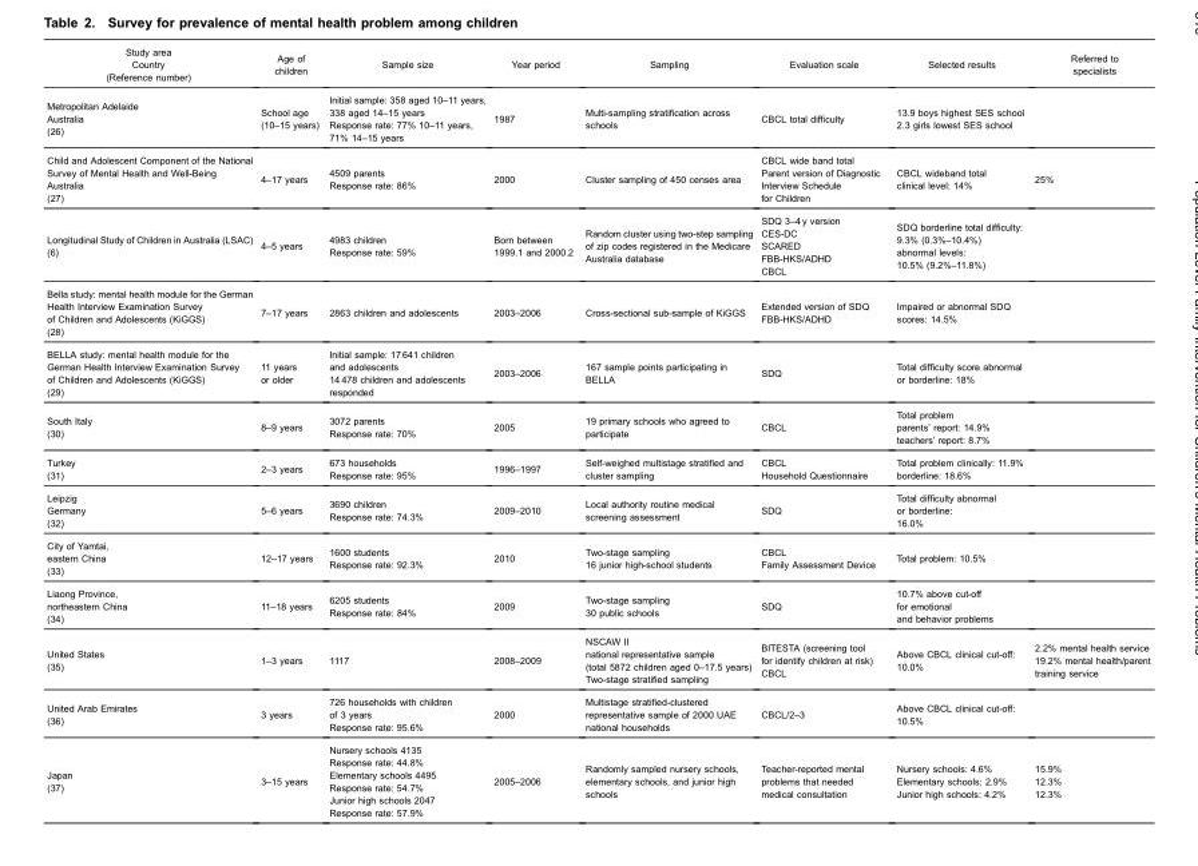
<table><thead><tr><td>Study area Country (Reference number)</td><td>Age of children</td><td>Sample size</td><td>Year period</td><td>Sampling</td><td>Evaluation scale</td><td>Selected results</td><td>Referred to specialists</td></tr></thead><tbody><tr><td>Metropolitan Adelaide Australia (26)</td><td>School age (10–15 years)</td><td>Initial sample: 358 aged 10–11 years, 338 aged 14–15 years Response rate: 77% 10–11 years, 71% 14–15 years</td><td>1987</td><td>Multi-sampling stratification across schools</td><td>CBCL total difficulty</td><td>13.9 boys highest SES school 2.3 girls lowest SES school</td><td></td></tr><tr><td>Child and Adolescent Component of the National Survey of Mental Health and Well-Being Australia (27)</td><td>4–17 years</td><td>4509 parents Response rate: 86%</td><td>2000</td><td>Cluster sampling of 450 censes area</td><td>CBCL wide band total Parent version of Diagnostic Interview Schedule for Children</td><td>CBCL wideband total clinical level: 14%</td><td>25%</td></tr><tr><td>Longitudinal Study of Children in Australia (LSAC) (6)</td><td>4–5 years</td><td>4983 children Response rate: 59%</td><td>Born between 1999.1 and 2000.2</td><td>Random cluster using two-step sampling of zip codes registered in the Medicare Australia database</td><td>SDQ 3–4 y version CES-DC SCARED FBB-HKS/ADHD CBCL</td><td>SDQ borderline total difficulty: 9.3% (0.3%–10.4%) abnormal levels: 10.5% (9.2%–11.8%)</td><td></td></tr><tr><td>Bella study: mental health module for the German Health Interview Examination Survey of Children and Adolescents (KiGGS) (28)</td><td>7–17 years</td><td>2863 children and adolescents</td><td>2003–2006</td><td>Cross-sectional sub-sample of KiGGS</td><td>Extended version of SDQ FBB-HKS/ADHD</td><td>Impaired or abnormal SDQ scores: 14.5%</td><td></td></tr><tr><td>BELLA study: mental health module for the German Health Interview Examination Survey of Children and Adolescents (KiGGS) (29)</td><td>11 years or older</td><td>Initial sample: 17 641 children and adolescents 14 478 children and adolescents responded</td><td>2003–2006</td><td>167 sample points participating in BELLA</td><td>SDQ</td><td>Total difficulty score abnormal or borderline: 18%</td><td></td></tr><tr><td>South Italy (30)</td><td>8–9 years</td><td>3072 parents Response rate: 70%</td><td>2005</td><td>19 primary schools who agreed to participate</td><td>CBCL</td><td>Total problem parents’ report: 14.9% teachers’ report: 8.7%</td><td></td></tr><tr><td>Turkey (31)</td><td>2–3 years</td><td>673 households Response rate: 95%</td><td>1996–1997</td><td>Self-weighed multistage stratified and cluster sampling</td><td>CBCL Household Questionnaire</td><td>Total problem clinically: 11.9% borderline: 18.6%</td><td></td></tr><tr><td>Leipzig Germany (32)</td><td>5–6 years</td><td>3690 children Response rate: 74.3%</td><td>2009–2010</td><td>Local authority routine medical screening assessment</td><td>SDQ</td><td>Total difficulty abnormal or borderline: 16.0%</td><td></td></tr><tr><td>City of Yamtai, eastern China (33)</td><td>12–17 years</td><td>1600 students Response rate: 92.3%</td><td>2010</td><td>Two-stage sampling 16 junior high-school students</td><td>CBCL Family Assessment Device</td><td>Total problem: 10.5%</td><td></td></tr><tr><td>Liaong Province, northeastern China (34)</td><td>11–18 years</td><td>6205 students Response rate: 84%</td><td>2009</td><td>Two-stage sampling 30 public schools</td><td>SDQ</td><td>10.7% above cut-off for emotional and behavior problems</td><td></td></tr><tr><td>United States (35)</td><td>1–3 years</td><td>1117</td><td>2008–2009</td><td>NSCAW II national representative sample (total 5872 children aged 0–17.5 years) Two-stage stratified sampling</td><td>BITESTA (screening tool for identify children at risk) CBCL</td><td>Above CBCL clinical cut-off: 10.0%</td><td>2.2% mental health service 19.2% mental health/parent training service</td></tr><tr><td>United Arab Emirates (36)</td><td>3 years</td><td>726 households with children of 3 years Response rate: 95.6%</td><td>2000</td><td>Multistage stratified-clustered representative sample of 2000 UAE national households</td><td>CBCL/2–3</td><td>Above CBCL clinical cut-off: 10.5%</td><td></td></tr><tr><td rowspan="3">Japan (37)</td><td rowspan="3">3–15 years</td><td>Nursery schools 4135 Response rate: 44.8%</td><td rowspan="3">2005–2006</td><td rowspan="3">Randomly sampled nursery schools, elementary schools, and junior high schools</td><td rowspan="3">Teacher-reported mental problems that needed medical consultation</td><td rowspan="3">Nursery schools: 4.6% Elementary schools: 2.9% Junior high schools: 4.2%</td><td rowspan="3">15.9% 12.3% 12.3%</td></tr><tr><td>Elementary schools 4495 Response rate: 54.7%</td></tr><tr><td>Junior high schools 2047 Response rate: 57.9%</td></tr></tbody></table>